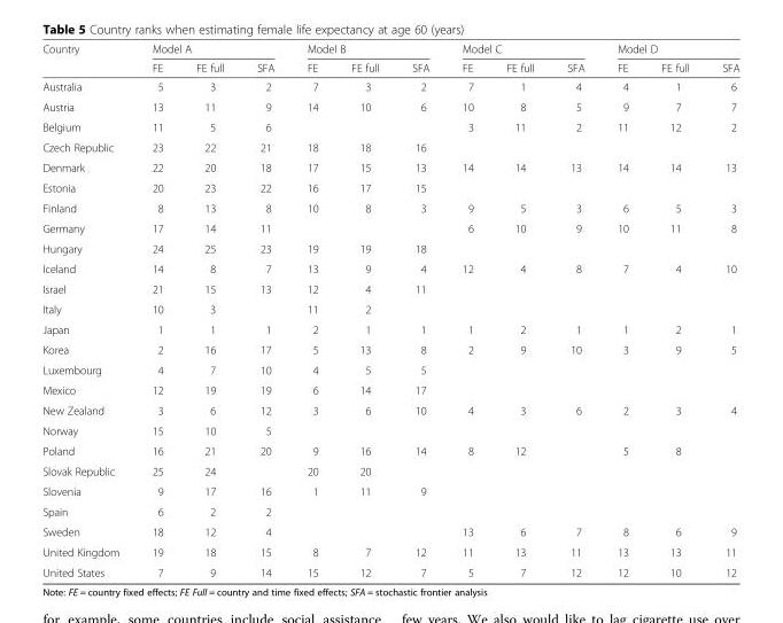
<table><thead><tr><td rowspan="2">Country</td><td colspan="3">Model A</td><td colspan="3">Model B</td><td colspan="3">Model C</td><td colspan="3">Model D</td></tr><tr><td>FE</td><td>FE full</td><td>SFA</td><td>FE</td><td>FE full</td><td>SFA</td><td>FE</td><td>FE full</td><td>SFA</td><td>FE</td><td>FE full</td><td>SFA</td></tr></thead><tbody><tr><td>Australia</td><td>5</td><td>3</td><td>2</td><td>7</td><td>3</td><td>2</td><td>7</td><td>1</td><td>4</td><td>4</td><td>1</td><td>6</td></tr><tr><td>Austria</td><td>13</td><td>11</td><td>9</td><td>14</td><td>10</td><td>6</td><td>10</td><td>8</td><td>5</td><td>9</td><td>7</td><td>7</td></tr><tr><td>Belgium</td><td>11</td><td>5</td><td>6</td><td></td><td></td><td></td><td>3</td><td>11</td><td>2</td><td>11</td><td>12</td><td>2</td></tr><tr><td>Czech Republic</td><td>23</td><td>22</td><td>21</td><td>18</td><td>18</td><td>16</td><td></td><td></td><td></td><td></td><td></td><td></td></tr><tr><td>Denmark</td><td>22</td><td>20</td><td>18</td><td>17</td><td>15</td><td>13</td><td>14</td><td>14</td><td>13</td><td>14</td><td>14</td><td>13</td></tr><tr><td>Estonia</td><td>20</td><td>23</td><td>22</td><td>16</td><td>17</td><td>15</td><td></td><td></td><td></td><td></td><td></td><td></td></tr><tr><td>Finland</td><td>8</td><td>13</td><td>8</td><td>10</td><td>8</td><td>3</td><td>9</td><td>5</td><td>3</td><td>6</td><td>5</td><td>3</td></tr><tr><td>Germany</td><td>17</td><td>14</td><td>11</td><td></td><td></td><td></td><td>6</td><td>10</td><td>9</td><td>10</td><td>11</td><td>8</td></tr><tr><td>Hungary</td><td>24</td><td>25</td><td>23</td><td>19</td><td>19</td><td>18</td><td></td><td></td><td></td><td></td><td></td><td></td></tr><tr><td>Iceland</td><td>14</td><td>8</td><td>7</td><td>13</td><td>9</td><td>4</td><td>12</td><td>4</td><td>8</td><td>7</td><td>4</td><td>10</td></tr><tr><td>Israel</td><td>21</td><td>15</td><td>13</td><td>12</td><td>4</td><td>11</td><td></td><td></td><td></td><td></td><td></td><td></td></tr><tr><td>Italy</td><td>10</td><td>3</td><td></td><td>11</td><td>2</td><td></td><td></td><td></td><td></td><td></td><td></td><td></td></tr><tr><td>Japan</td><td>1</td><td>1</td><td>1</td><td>2</td><td>1</td><td>1</td><td>1</td><td>2</td><td>1</td><td>1</td><td>2</td><td>1</td></tr><tr><td>Korea</td><td>2</td><td>16</td><td>17</td><td>5</td><td>13</td><td>8</td><td>2</td><td>9</td><td>10</td><td>3</td><td>9</td><td>5</td></tr><tr><td>Luxembourg</td><td>4</td><td>7</td><td>10</td><td>4</td><td>5</td><td>5</td><td></td><td></td><td></td><td></td><td></td><td></td></tr><tr><td>Mexico</td><td>12</td><td>19</td><td>19</td><td>6</td><td>14</td><td>17</td><td></td><td></td><td></td><td></td><td></td><td></td></tr><tr><td>New Zealand</td><td>3</td><td>6</td><td>12</td><td>3</td><td>6</td><td>10</td><td>4</td><td>3</td><td>6</td><td>2</td><td>3</td><td>4</td></tr><tr><td>Norway</td><td>15</td><td>10</td><td>5</td><td></td><td></td><td></td><td></td><td></td><td></td><td></td><td></td><td></td></tr><tr><td>Poland</td><td>16</td><td>21</td><td>20</td><td>9</td><td>16</td><td>14</td><td>8</td><td>12</td><td></td><td>5</td><td>8</td><td></td></tr><tr><td>Slovak Republic</td><td>25</td><td>24</td><td></td><td>20</td><td>20</td><td></td><td></td><td></td><td></td><td></td><td></td><td></td></tr><tr><td>Slovenia</td><td>9</td><td>17</td><td>16</td><td>1</td><td>11</td><td>9</td><td></td><td></td><td></td><td></td><td></td><td></td></tr><tr><td>Spain</td><td>6</td><td>2</td><td>2</td><td></td><td></td><td></td><td></td><td></td><td></td><td></td><td></td><td></td></tr><tr><td>Sweden</td><td>18</td><td>12</td><td>4</td><td></td><td></td><td></td><td>13</td><td>6</td><td>7</td><td>8</td><td>6</td><td>9</td></tr><tr><td>United Kingdom</td><td>19</td><td>18</td><td>15</td><td>8</td><td>7</td><td>12</td><td>11</td><td>13</td><td>11</td><td>13</td><td>13</td><td>11</td></tr><tr><td>United States</td><td>7</td><td>9</td><td>14</td><td>15</td><td>12</td><td>7</td><td>5</td><td>7</td><td>12</td><td>12</td><td>10</td><td>12</td></tr></tbody></table>